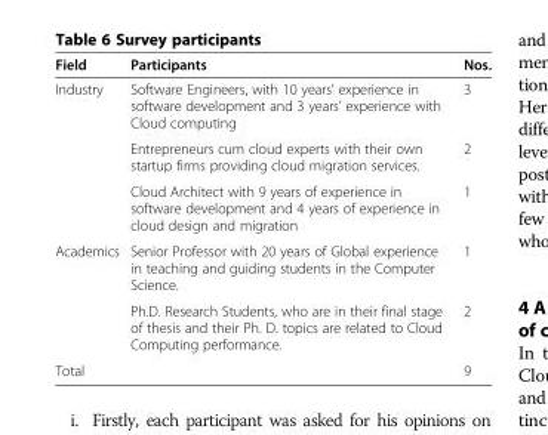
<table><thead><tr><td>Field</td><td>Participants</td><td>Nos.</td></tr></thead><tbody><tr><td rowspan="3">Industry</td><td>Software Engineers, with 10 years’ experience in software development and 3 years’ experience with Cloud computing</td><td>3</td></tr><tr><td>Entrepreneurs cum cloud experts with their own startup firms providing cloud migration services.</td><td>2</td></tr><tr><td>Cloud Architect with 9 years of experience in software development and 4 years of experience in cloud design and migration</td><td>1</td></tr><tr><td rowspan="2">Academics</td><td>Senior Professor with 20 years of Global experience in teaching and guiding students in the Computer Science.</td><td>1</td></tr><tr><td>Ph.D. Research Students, who are in their final stage of thesis and their Ph. D. topics are related to Cloud Computing performance.</td><td>2</td></tr><tr><td colspan="2">Total</td><td>9</td></tr></tbody></table>